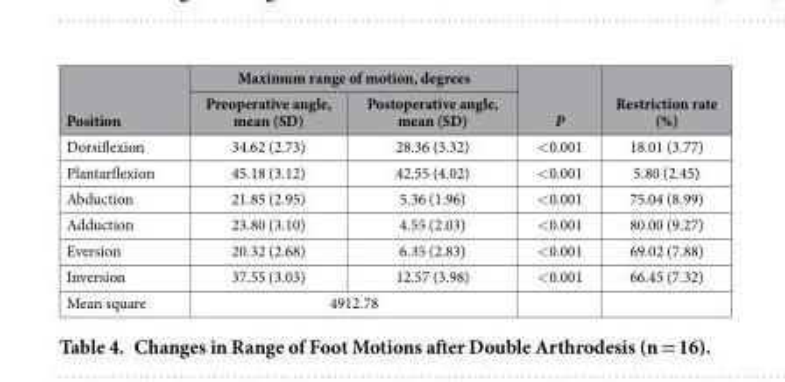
<table><thead><tr><td rowspan="2">Position</td><td colspan="2">Maximum range of motion, degrees</td><td rowspan="2">P</td><td rowspan="2">Restriction rate (%)</td></tr><tr><td>Preoperative angle, mean (SD)</td><td>Postoperative angle, mean (SD)</td></tr></thead><tbody><tr><td>Dorsiflexion</td><td>34.62 (2.73)</td><td>28.36 (3.32)</td><td>&lt; 0.001</td><td>18.01 (3.77)</td></tr><tr><td>Plantarflexion</td><td>45.18 (3.12)</td><td>42.55 (4.02)</td><td>&lt; 0.001</td><td>5.80 (2.45)</td></tr><tr><td>Abduction</td><td>21.85 (2.95)</td><td>5.36 (1.96)</td><td>&lt; 0.001</td><td>75.04 (8.99)</td></tr><tr><td>Adduction</td><td>23.80 (3.10)</td><td>4.55 (2.03)</td><td>&lt; 0.001</td><td>80.00 (9.27)</td></tr><tr><td>Eversion</td><td>20.32 (2.68)</td><td>6.35 (2.83)</td><td>&lt; 0.001</td><td>69.02 (7.88)</td></tr><tr><td>Inversion</td><td>37.55 (3.03)</td><td>12.57 (3.98)</td><td>&lt; 0.001</td><td>66.45 (7.32)</td></tr><tr><td>Mean square</td><td colspan="2">4912.78</td><td></td><td></td></tr></tbody></table>